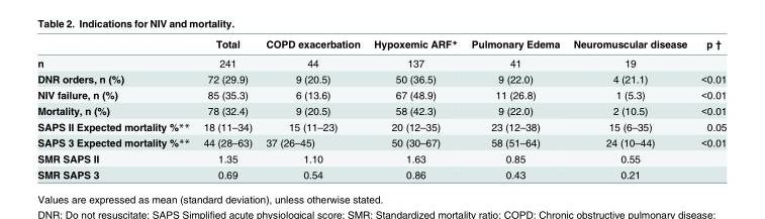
<table><thead><tr><td></td><td>Total</td><td>COPD exacerbation</td><td>Hypoxemic ARF*</td><td>Pulmonary Edema</td><td>Neuromuscular disease</td><td>p †</td></tr></thead><tbody><tr><td>n</td><td>241</td><td>44</td><td>137</td><td>41</td><td>19</td><td></td></tr><tr><td>DNR orders, n (%)</td><td>72 (29.9)</td><td>9 (20.5)</td><td>50 (36.5)</td><td>9 (22.0)</td><td>4 (21.1)</td><td>&lt;0.01</td></tr><tr><td>NIV failure, n (%)</td><td>85 (35.3)</td><td>6 (13.6)</td><td>67 (48.9)</td><td>11 (26.8)</td><td>1 (5.3)</td><td>&lt;0.01</td></tr><tr><td>Mortality, n (%)</td><td>78 (32.4)</td><td>9 (20.5)</td><td>58 (42.3)</td><td>9 (22.0)</td><td>2 (10.5)</td><td>&lt;0.01</td></tr><tr><td>SAPS II Expected mortality %**</td><td>18 (11–34)</td><td>15 (11–23)</td><td>20 (12–35)</td><td>23 (12–38)</td><td>15 (6–35)</td><td>0.05</td></tr><tr><td>SAPS 3 Expected mortality %**</td><td>44 (28–63)</td><td>37 (26–45)</td><td>50 (30–67)</td><td>58 (51–64)</td><td>24 (10–44)</td><td>&lt;0.01</td></tr><tr><td>SMR SAPS II</td><td>1.35</td><td>1.10</td><td>1.63</td><td>0.85</td><td>0.55</td><td></td></tr><tr><td>SMR SAPS 3</td><td>0.69</td><td>0.54</td><td>0.86</td><td>0.43</td><td>0.21</td><td></td></tr></tbody></table>